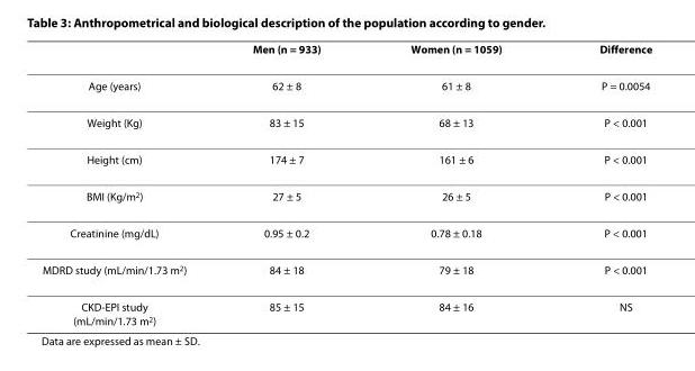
<table><thead><tr><td></td><td>Men (n = 933)</td><td>Women (n = 1059)</td><td>Difference</td></tr></thead><tbody><tr><td>Age (years)</td><td>62 ± 8</td><td>61 ± 8</td><td>P = 0.0054</td></tr><tr><td>Weight (Kg)</td><td>83 ± 15</td><td>68 ± 13</td><td>P &lt; 0.001</td></tr><tr><td>Height (cm)</td><td>174 ± 7</td><td>161 ± 6</td><td>P &lt; 0.001</td></tr><tr><td>BMI (Kg/m<sup>2</sup>)</td><td>27 ± 5</td><td>26 ± 5</td><td>P &lt; 0.001</td></tr><tr><td>Creatinine (mg/dL)</td><td>0.95 ± 0.2</td><td>0.78 ± 0.18</td><td>P &lt; 0.001</td></tr><tr><td>MDRD study (mL/min/1.73 m<sup>2</sup>)</td><td>84 ± 18</td><td>79 ± 18</td><td>P &lt; 0.001</td></tr><tr><td>CKD-EPI study (mL/min/1.73 m<sup>2</sup>)</td><td>85 ± 15</td><td>84 ± 16</td><td>NS</td></tr></tbody></table>